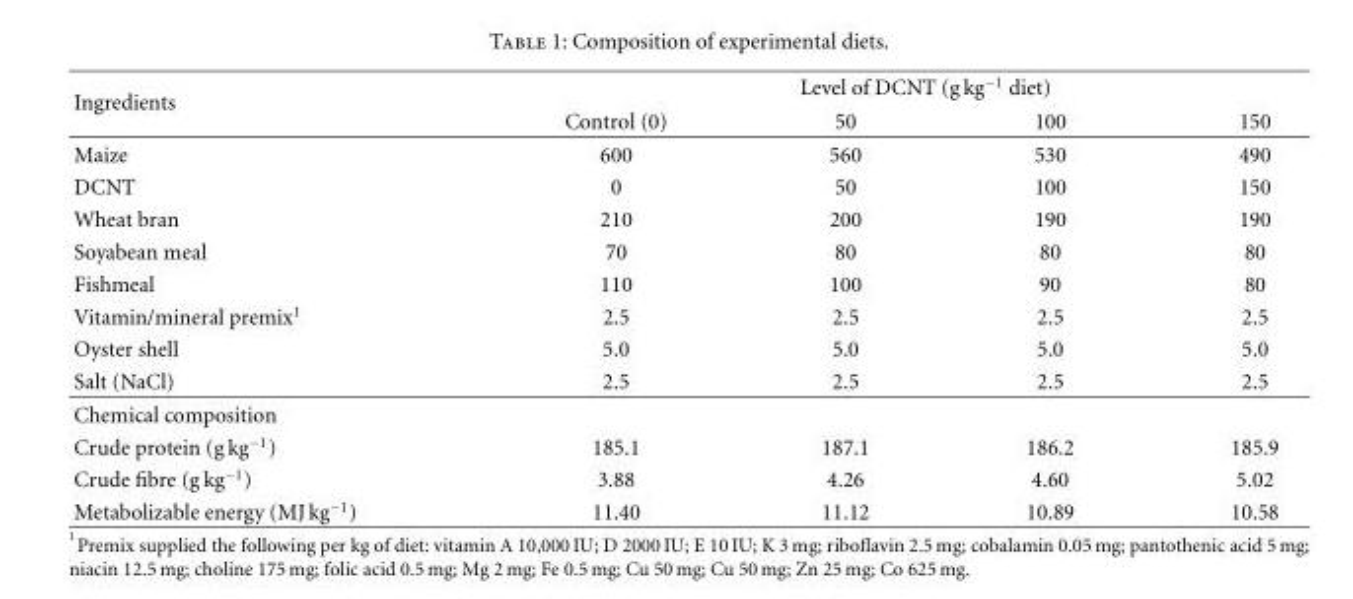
<table><thead><tr><td rowspan="2">Ingredients</td><td colspan="4">Level of DCNT (g kg<sup>−1</sup> diet)</td></tr><tr><td>Control (0)</td><td>50</td><td>100</td><td>150</td></tr></thead><tbody><tr><td>Maize</td><td>600</td><td>560</td><td>530</td><td>490</td></tr><tr><td>DCNT</td><td>0</td><td>50</td><td>100</td><td>150</td></tr><tr><td>Wheat bran</td><td>210</td><td>200</td><td>190</td><td>190</td></tr><tr><td>Soyabean meal</td><td>70</td><td>80</td><td>80</td><td>80</td></tr><tr><td>Fishmeal</td><td>110</td><td>100</td><td>90</td><td>80</td></tr><tr><td>Vitamin/mineral premix<sup>1</sup></td><td>2.5</td><td>2.5</td><td>2.5</td><td>2.5</td></tr><tr><td>Oyster shell</td><td>5.0</td><td>5.0</td><td>5.0</td><td>5.0</td></tr><tr><td>Salt (NaCl)</td><td>2.5</td><td>2.5</td><td>2.5</td><td>2.5</td></tr><tr><td colspan="5">Chemical composition</td></tr><tr><td>Crude protein (g kg<sup>−1</sup>)</td><td>185.1</td><td>187.1</td><td>186.2</td><td>185.9</td></tr><tr><td>Crude fibre (g kg<sup>−1</sup>)</td><td>3.88</td><td>4.26</td><td>4.60</td><td>5.02</td></tr><tr><td>Metabolizable energy (MJ kg<sup>−1</sup>)</td><td>11.40</td><td>11.12</td><td>10.89</td><td>10.58</td></tr></tbody></table>